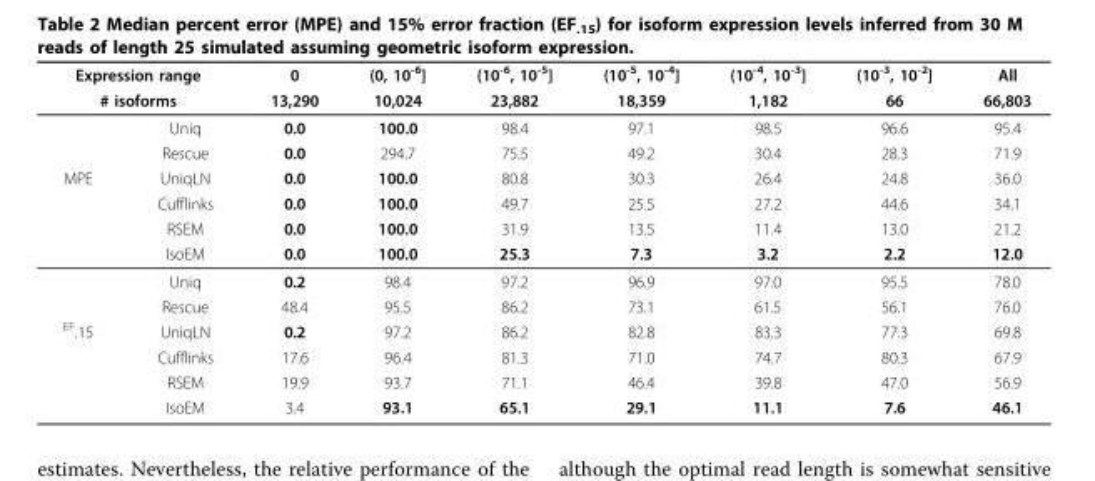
<table><thead><tr><td rowspan="2" colspan="2">Expression range # isoforms</td><td rowspan="3">0 13,290 0.0</td><td rowspan="3">(0, 10-6] 10,024 100.0</td><td rowspan="3">(10-6, 10-5] 23,882 98.4</td><td rowspan="3">(10-5, 10-4] 18,359 97.1</td><td rowspan="3">(10-4, 10-3] 1,182 98.5</td><td rowspan="3">(10-3, 10-2] 66 96.6</td><td rowspan="3">All 66,803 95.4</td></tr><tr></tr><tr><td></td><td>Uniq</td></tr></thead><tbody><tr><td></td><td>Rescue</td><td>0.0</td><td>294.7</td><td>75.5</td><td>49.2</td><td>30.4</td><td>28.3</td><td>71.9</td></tr><tr><td rowspan="6">MPE</td><td>UniqLN</td><td>0.0</td><td>100.0</td><td>80.8</td><td>30.3</td><td>26.4</td><td>24.8</td><td>36.0</td></tr><tr><td>Cufflinks</td><td>0.0</td><td>100.0</td><td>49.7</td><td>25.5</td><td>27.2</td><td>44.6</td><td>34.1</td></tr><tr><td>RSEM</td><td>0.0</td><td>100.0</td><td>31.9</td><td>13.5</td><td>11.4</td><td>13.0</td><td>21.2</td></tr><tr><td>IsoEM</td><td>0.0</td><td>100.0</td><td>25.3</td><td>7.3</td><td>3.2</td><td>2.2</td><td>12.0</td></tr><tr><td>Uniq</td><td>0.2</td><td>98.4</td><td>97.2</td><td>96.9</td><td>97.0</td><td>95.5</td><td>78.0</td></tr><tr><td>Rescue</td><td>48.4</td><td>95.5</td><td>86.2</td><td>73.1</td><td>61.5</td><td>56.1</td><td>76.0</td></tr><tr><td rowspan="4">EF.15</td><td>UniqLN</td><td>0.2</td><td>97.2</td><td>86.2</td><td>82.8</td><td>83.3</td><td>77.3</td><td>69.8</td></tr><tr><td>Cufflinks</td><td>17.6</td><td>96.4</td><td>81.3</td><td>71.0</td><td>74.7</td><td>80.3</td><td>67.9</td></tr><tr><td>RSEM</td><td>19.9</td><td>93.7</td><td>71.1</td><td>46.4</td><td>39.8</td><td>47.0</td><td>56.9</td></tr><tr><td>IsoEM</td><td>3.4</td><td>93.1</td><td>65.1</td><td>29.1</td><td>11.1</td><td>7.6</td><td>46.1</td></tr></tbody></table>